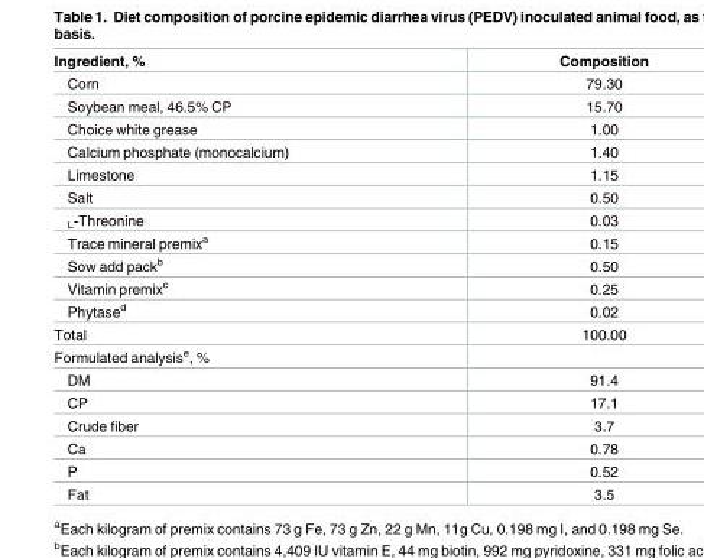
<table><thead><tr><td>Ingredient, %</td><td>Composition</td></tr></thead><tbody><tr><td>Corn</td><td>79.30</td></tr><tr><td>Soybean meal, 46.5% CP</td><td>15.70</td></tr><tr><td>Choice white grease</td><td>1.00</td></tr><tr><td>Calcium phosphate (monocalcium)</td><td>1.40</td></tr><tr><td>Limestone</td><td>1.15</td></tr><tr><td>Salt</td><td>0.50</td></tr><tr><td><sub>L</sub>-Threonine</td><td>0.03</td></tr><tr><td>Trace mineral premix<sup>a</sup></td><td>0.15</td></tr><tr><td>Sow add pack<sup>b</sup></td><td>0.50</td></tr><tr><td>Vitamin premix<sup>c</sup></td><td>0.25</td></tr><tr><td>Phytase<sup>d</sup></td><td>0.02</td></tr><tr><td>Total</td><td>100.00</td></tr><tr><td colspan="2">Formulated analysis<sup>e</sup>, %</td></tr><tr><td>DM</td><td>91.4</td></tr><tr><td>CP</td><td>17.1</td></tr><tr><td>Crude fiber</td><td>3.7</td></tr><tr><td>Ca</td><td>0.78</td></tr><tr><td>P</td><td>0.52</td></tr><tr><td>Fat</td><td>3.5</td></tr></tbody></table>